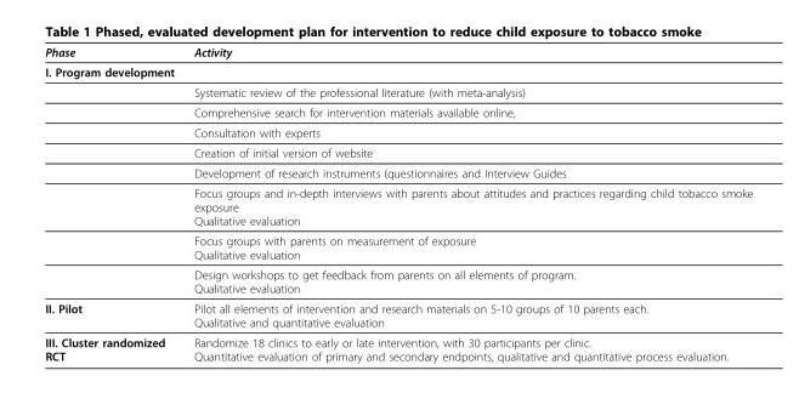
<table><thead><tr><td>Phase</td><td>Activity</td></tr></thead><tbody><tr><td colspan="2">I. Program development</td></tr><tr><td></td><td>Systematic review of the professional literature (with meta-analysis)</td></tr><tr><td></td><td>Comprehensive search for intervention materials available online,</td></tr><tr><td></td><td>Consultation with experts</td></tr><tr><td></td><td>Creation of initial version of website</td></tr><tr><td></td><td>Development of research instruments (questionnaires and Interview Guides</td></tr><tr><td></td><td>Focus groups and in-depth interviews with parents about attitudes and practices regarding child tobacco smoke exposure Qualitative evaluation</td></tr><tr><td></td><td>Focus groups with parents on measurement of exposure Qualitative evaluation</td></tr><tr><td></td><td>Design workshops to get feedback from parents on all elements of program. Qualitative evaluation</td></tr><tr><td>II. Pilot</td><td>Pilot all elements of intervention and research materials on 5-10 groups of 10 parents each. Qualitative and quantitative evaluation</td></tr><tr><td>III. Cluster randomized RCT</td><td>Randomize 18 clinics to early or late intervention, with 30 participants per clinic. Quantitative evaluation of primary and secondary endpoints, qualitative and quantitative process evaluation.</td></tr></tbody></table>